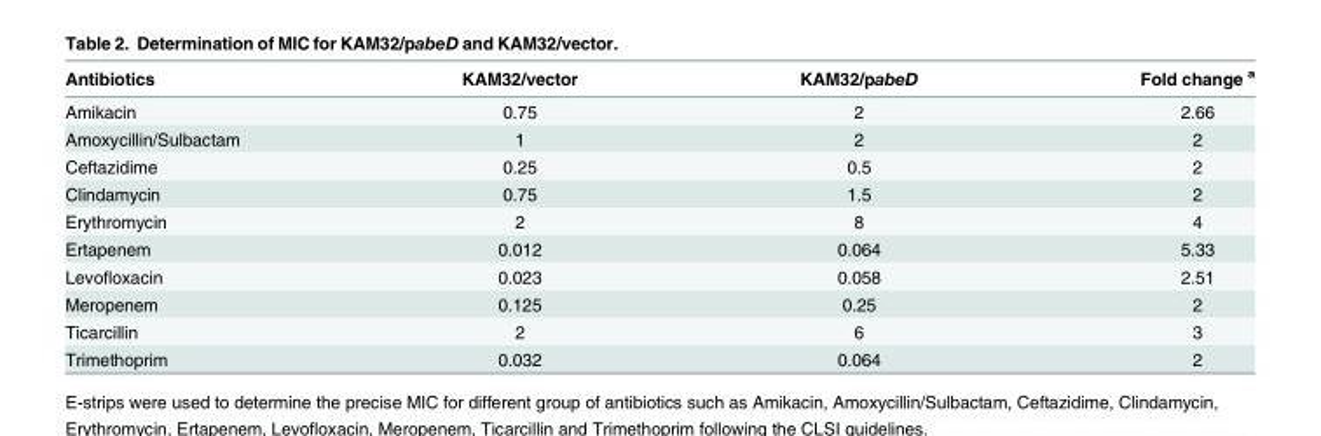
<table><thead><tr><td>Antibiotics</td><td>KAM32/vector</td><td>KAM32/pabeD</td><td>Fold change <sup>a</sup></td></tr></thead><tbody><tr><td>Amikacin</td><td>0.75</td><td>2</td><td>2.66</td></tr><tr><td>Amoxycillin/Sulbactam</td><td>1</td><td>2</td><td>2</td></tr><tr><td>Ceftazidime</td><td>0.25</td><td>0.5</td><td>2</td></tr><tr><td>Clindamycin</td><td>0.75</td><td>1.5</td><td>2</td></tr><tr><td>Erythromycin</td><td>2</td><td>8</td><td>4</td></tr><tr><td>Ertapenem</td><td>0.012</td><td>0.064</td><td>5.33</td></tr><tr><td>Levofloxacin</td><td>0.023</td><td>0.058</td><td>2.51</td></tr><tr><td>Meropenem</td><td>0.125</td><td>0.25</td><td>2</td></tr><tr><td>Ticarcillin</td><td>2</td><td>6</td><td>3</td></tr><tr><td>Trimethoprim</td><td>0.032</td><td>0.064</td><td>2</td></tr></tbody></table>